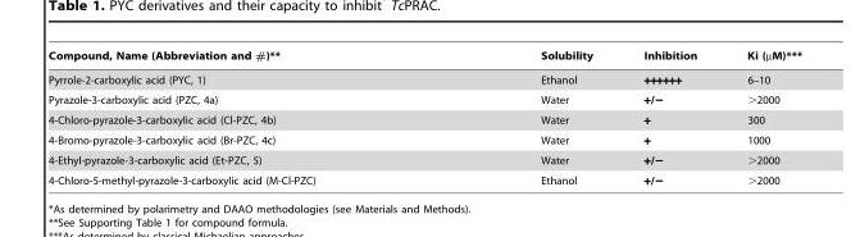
<table><thead><tr><td>Compound, Name (Abbreviation and #)**</td><td>Solubility</td><td>Inhibition</td><td>Ki (µM)***</td></tr></thead><tbody><tr><td>Pyrrole-2-carboxylic acid (PYC, 1)</td><td>Ethanol</td><td>++++++</td><td>6–10</td></tr><tr><td>Pyrazole-3-carboxylic acid (PZC, 4a)</td><td>Water</td><td>+/−</td><td>&gt;2000</td></tr><tr><td>4-Chloro-pyrazole-3-carboxylic acid (Cl-PZC, 4b)</td><td>Water</td><td>+</td><td>300</td></tr><tr><td>4-Bromo-pyrazole-3-carboxylic acid (Br-PZC, 4c)</td><td>Water</td><td>+</td><td>1000</td></tr><tr><td>4-Ethyl-pyrazole-3-carboxylic acid (Et-PZC, 5)</td><td>Water</td><td>+/−</td><td>&gt;2000</td></tr><tr><td>4-Chloro-5-methyl-pyrazole-3-carboxylic acid (M-Cl-PZC)</td><td>Ethanol</td><td>+/−</td><td>&gt;2000</td></tr></tbody></table>